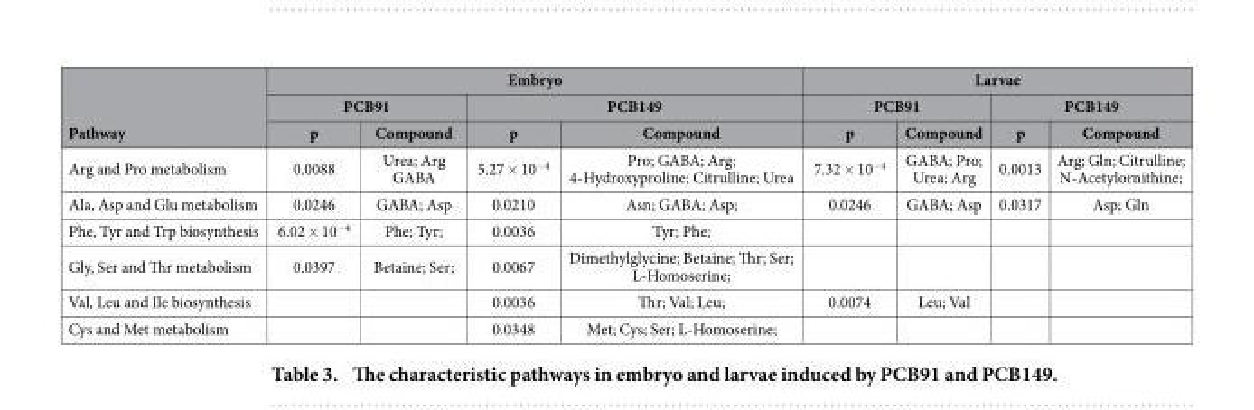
<table><thead><tr><td rowspan="3">Pathway</td><td colspan="4">Embryo</td><td colspan="4">Larvae</td></tr><tr><td colspan="2">PCB91</td><td colspan="2">PCB149</td><td colspan="2">PCB91</td><td colspan="2">PCB149</td></tr><tr><td>p</td><td>Compound</td><td>p</td><td>Compound</td><td>p</td><td>Compound</td><td>p</td><td>Compound</td></tr></thead><tbody><tr><td>Arg and Pro metabolism</td><td>0.0088</td><td>Urea; Arg GABA</td><td>5.27 × 10<sup>−4</sup></td><td>Pro; GABA; Arg; 4-Hydroxyproline; Citrulline; Urea</td><td>7.32 × 10<sup>−4</sup></td><td>GABA; Pro; Urea; Arg</td><td>0.0013</td><td>Arg; Gln; Citrulline; N-Acetylornithine;</td></tr><tr><td>Ala, Asp and Glu metabolism</td><td>0.0246</td><td>GABA; Asp</td><td>0.0210</td><td>Asn; GABA; Asp;</td><td>0.0246</td><td>GABA; Asp</td><td>0.0317</td><td>Asp; Gln</td></tr><tr><td>Phe, Tyr and Trp biosynthesis</td><td>6.02 × 10<sup>−4</sup></td><td>Phe; Tyr;</td><td>0.0036</td><td>Tyr; Phe;</td><td></td><td></td><td></td><td></td></tr><tr><td>Gly, Ser and Thr metabolism</td><td>0.0397</td><td>Betaine; Ser;</td><td>0.0067</td><td>Dimethylglycine; Betaine; Thr; Ser; L-Homoserine;</td><td></td><td></td><td></td><td></td></tr><tr><td>Val, Leu and Ile biosynthesis</td><td></td><td></td><td>0.0036</td><td>Thr; Val; Leu;</td><td>0.0074</td><td>Leu; Val</td><td></td><td></td></tr><tr><td>Cys and Met metabolism</td><td></td><td></td><td>0.0348</td><td>Met; Cys; Ser; L-Homoserine;</td><td></td><td></td><td></td><td></td></tr></tbody></table>